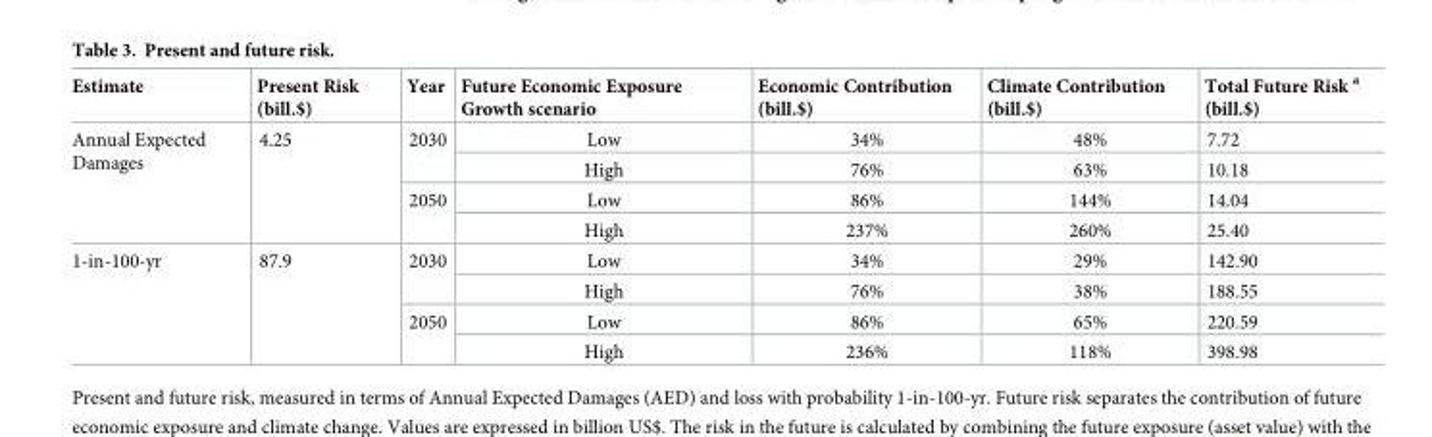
<table><thead><tr><td>Estimate</td><td>Present Risk (bill.$)</td><td>Year</td><td>Future Economic Exposure Growth scenario</td><td>Economic Contribution (bill.$)</td><td>Climate Contribution (bill.$)</td><td>Total Future Risk <sup>a</sup> (bill.$)</td></tr></thead><tbody><tr><td rowspan="4">Annual Expected Damages</td><td rowspan="4">4.25</td><td rowspan="2">2030</td><td>Low</td><td>34%</td><td>48%</td><td>7.72</td></tr><tr><td>High</td><td>76%</td><td>63%</td><td>10.18</td></tr><tr><td rowspan="2">2050</td><td>Low</td><td>86%</td><td>144%</td><td>14.04</td></tr><tr><td>High</td><td>237%</td><td>260%</td><td>25.40</td></tr><tr><td rowspan="4">1-in-100-yr</td><td rowspan="4">87.9</td><td rowspan="2">2030</td><td>Low</td><td>34%</td><td>29%</td><td>142.90</td></tr><tr><td>High</td><td>76%</td><td>38%</td><td>188.55</td></tr><tr><td rowspan="2">2050</td><td>Low</td><td>86%</td><td>65%</td><td>220.59</td></tr><tr><td>High</td><td>236%</td><td>118%</td><td>398.98</td></tr></tbody></table>